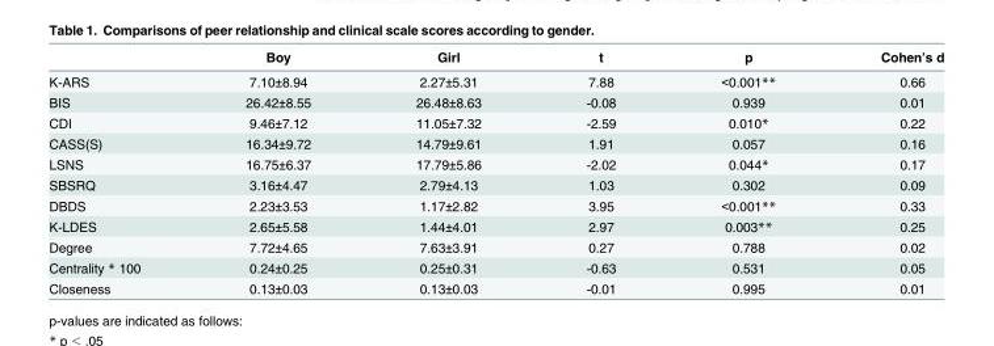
<table><thead><tr><td></td><td>Boy</td><td>Girl</td><td>t</td><td>p</td><td>Cohen’s d</td></tr></thead><tbody><tr><td>K-ARS</td><td>7.10±8.94</td><td>2.27±5.31</td><td>7.88</td><td>&lt;0.001**</td><td>0.66</td></tr><tr><td>BIS</td><td>26.42±8.55</td><td>26.48±8.63</td><td>-0.08</td><td>0.939</td><td>0.01</td></tr><tr><td>CDI</td><td>9.46±7.12</td><td>11.05±7.32</td><td>-2.59</td><td>0.010*</td><td>0.22</td></tr><tr><td>CASS(S)</td><td>16.34±9.72</td><td>14.79±9.61</td><td>1.91</td><td>0.057</td><td>0.16</td></tr><tr><td>LSNS</td><td>16.75±6.37</td><td>17.79±5.86</td><td>-2.02</td><td>0.044*</td><td>0.17</td></tr><tr><td>SBSRQ</td><td>3.16±4.47</td><td>2.79±4.13</td><td>1.03</td><td>0.302</td><td>0.09</td></tr><tr><td>DBDS</td><td>2.23±3.53</td><td>1.17±2.82</td><td>3.95</td><td>&lt;0.001**</td><td>0.33</td></tr><tr><td>K-LDES</td><td>2.65±5.58</td><td>1.44±4.01</td><td>2.97</td><td>0.003**</td><td>0.25</td></tr><tr><td>Degree</td><td>7.72±4.65</td><td>7.63±3.91</td><td>0.27</td><td>0.788</td><td>0.02</td></tr><tr><td>Centrality * 100</td><td>0.24±0.25</td><td>0.25±0.31</td><td>-0.63</td><td>0.531</td><td>0.05</td></tr><tr><td>Closeness</td><td>0.13±0.03</td><td>0.13±0.03</td><td>-0.01</td><td>0.995</td><td>0.01</td></tr></tbody></table>